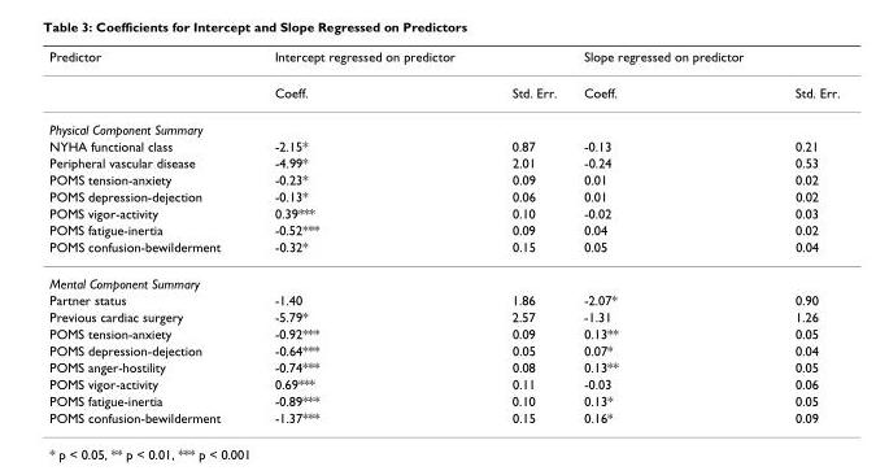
<table><thead><tr><td>Predictor</td><td>Intercept regressed on predictor</td><td></td><td>Slope regressed on predictor</td><td></td></tr></thead><tbody><tr><td></td><td>Coeff.</td><td>Std. Err.</td><td>Coeff.</td><td>Std. Err.</td></tr><tr><td colspan="5">Physical Component Summary</td></tr><tr><td>NYHA functional class</td><td>-2.15*</td><td>0.87</td><td>-0.13</td><td>0.21</td></tr><tr><td>Peripheral vascular disease</td><td>-4.99*</td><td>2.01</td><td>-0.24</td><td>0.53</td></tr><tr><td>POMS tension-anxiety</td><td>-0.23*</td><td>0.09</td><td>0.01</td><td>0.02</td></tr><tr><td>POMS depression-dejection</td><td>-0.13*</td><td>0.06</td><td>0.01</td><td>0.02</td></tr><tr><td>POMS vigor-activity</td><td>0.39***</td><td>0.10</td><td>-0.02</td><td>0.03</td></tr><tr><td>POMS fatigue-inertia</td><td>-0.52***</td><td>0.09</td><td>0.04</td><td>0.02</td></tr><tr><td>POMS confusion-bewilderment</td><td>-0.32*</td><td>0.15</td><td>0.05</td><td>0.04</td></tr><tr><td colspan="5">Mental Component Summary</td></tr><tr><td>Partner status</td><td>-1.40</td><td>1.86</td><td>-2.07*</td><td>0.90</td></tr><tr><td>Previous cardiac surgery</td><td>-5.79*</td><td>2.57</td><td>-1.31</td><td>1.26</td></tr><tr><td>POMS tension-anxiety</td><td>-0.92***</td><td>0.09</td><td>0.13**</td><td>0.05</td></tr><tr><td>POMS depression-dejection</td><td>-0.64***</td><td>0.05</td><td>0.07*</td><td>0.04</td></tr><tr><td>POMS anger-hostility</td><td>-0.74***</td><td>0.08</td><td>0.13**</td><td>0.05</td></tr><tr><td>POMS vigor-activity</td><td>0.69***</td><td>0.11</td><td>-0.03</td><td>0.06</td></tr><tr><td>POMS fatigue-inertia</td><td>-0.89***</td><td>0.10</td><td>0.13*</td><td>0.05</td></tr><tr><td>POMS confusion-bewilderment</td><td>-1.37***</td><td>0.15</td><td>0.16*</td><td>0.09</td></tr></tbody></table>